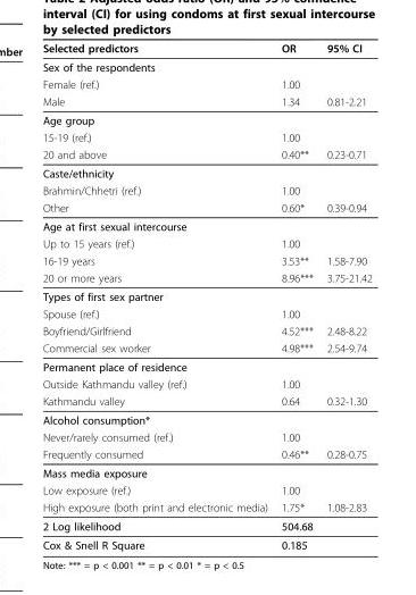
<table><thead><tr><td>Selected predictors</td><td>OR</td><td>95% CI</td></tr></thead><tbody><tr><td colspan="3">Sex of the respondents</td></tr><tr><td>Female (ref.)</td><td>1.00</td><td></td></tr><tr><td>Male</td><td>1.34</td><td>0.81-2.21</td></tr><tr><td colspan="3">Age group</td></tr><tr><td>15-19 (ref.)</td><td>1.00</td><td></td></tr><tr><td>20 and above</td><td>0.40**</td><td>0.23-0.71</td></tr><tr><td colspan="3">Caste/ethnicity</td></tr><tr><td>Brahmin/Chhetri (ref.)</td><td>1.00</td><td></td></tr><tr><td>Other</td><td>0.60*</td><td>0.39-0.94</td></tr><tr><td colspan="3">Age at first sexual intercourse</td></tr><tr><td>Up to 15 years (ref.)</td><td>1.00</td><td></td></tr><tr><td>16-19 years</td><td>3.53**</td><td>1.58-7.90</td></tr><tr><td>20 or more years</td><td>8.96***</td><td>3.75-21.42</td></tr><tr><td colspan="3">Types of first sex partner</td></tr><tr><td>Spouse (ref.)</td><td>1.00</td><td></td></tr><tr><td>Boyfriend/Girlfriend</td><td>4.52***</td><td>2.48-8.22</td></tr><tr><td>Commercial sex worker</td><td>4.98***</td><td>2.54-9.74</td></tr><tr><td colspan="3">Permanent place of residence</td></tr><tr><td>Outside Kathmandu valley (ref.)</td><td>1.00</td><td></td></tr><tr><td>Kathmandu valley</td><td>0.64</td><td>0.32-1.30</td></tr><tr><td colspan="3">Alcohol consumption*</td></tr><tr><td>Never/rarely consumed (ref.)</td><td>1.00</td><td></td></tr><tr><td>Frequently consumed</td><td>0.46**</td><td>0.28-0.75</td></tr><tr><td colspan="3">Mass media exposure</td></tr><tr><td>Low exposure (ref.)</td><td>1.00</td><td></td></tr><tr><td>High exposure (both print and electronic media)</td><td>1.75*</td><td>1.08-2.83</td></tr><tr><td>2 Log likelihood</td><td>504.68</td><td></td></tr><tr><td>Cox &amp; Snell R Square</td><td>0.185</td><td></td></tr></tbody></table>